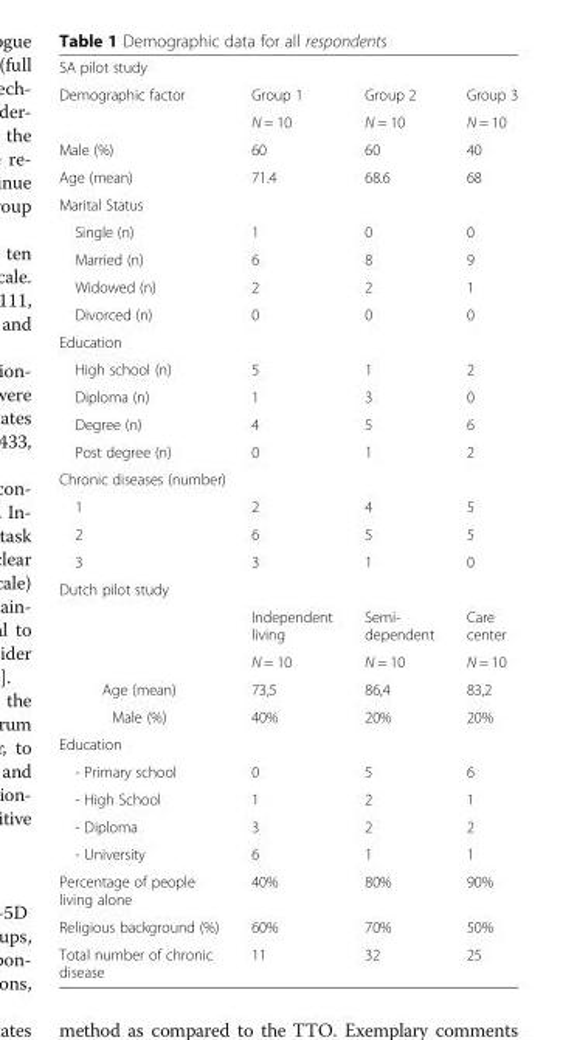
<table><tbody><tr><td colspan="4">SA pilot study</td></tr><tr><td rowspan="2">Demographic factor</td><td>Group 1</td><td>Group 2</td><td>Group 3</td></tr><tr><td>N = 10</td><td>N = 10</td><td>N = 10</td></tr><tr><td>Male (%)</td><td>60</td><td>60</td><td>40</td></tr><tr><td>Age (mean)</td><td>71.4</td><td>68.6</td><td>68</td></tr><tr><td colspan="4">Marital Status</td></tr><tr><td>Single (n)</td><td>1</td><td>0</td><td>0</td></tr><tr><td>Married (n)</td><td>6</td><td>8</td><td>9</td></tr><tr><td>Widowed (n)</td><td>2</td><td>2</td><td>1</td></tr><tr><td>Divorced (n)</td><td>0</td><td>0</td><td>0</td></tr><tr><td colspan="4">Education</td></tr><tr><td>High school (n)</td><td>5</td><td>1</td><td>2</td></tr><tr><td>Diploma (n)</td><td>1</td><td>3</td><td>0</td></tr><tr><td>Degree (n)</td><td>4</td><td>5</td><td>6</td></tr><tr><td>Post degree (n)</td><td>0</td><td>1</td><td>2</td></tr><tr><td colspan="4">Chronic diseases (number)</td></tr><tr><td>1</td><td>2</td><td>4</td><td>5</td></tr><tr><td>2</td><td>6</td><td>5</td><td>5</td></tr><tr><td>3</td><td>3</td><td>1</td><td>0</td></tr><tr><td colspan="4">Dutch pilot study</td></tr><tr><td></td><td>Independent living</td><td>Semi- dependent</td><td>Care center</td></tr><tr><td></td><td>N = 10</td><td>N = 10</td><td>N = 10</td></tr><tr><td>Age (mean)</td><td>73,5</td><td>86,4</td><td>83,2</td></tr><tr><td>Male (%)</td><td>40%</td><td>20%</td><td>20%</td></tr><tr><td colspan="4">Education</td></tr><tr><td>- Primary school</td><td>0</td><td>5</td><td>6</td></tr><tr><td>- High School</td><td>1</td><td>2</td><td>1</td></tr><tr><td>- Diploma</td><td>3</td><td>2</td><td>2</td></tr><tr><td>- University</td><td>6</td><td>1</td><td>1</td></tr><tr><td>Percentage of people living alone</td><td>40%</td><td>80%</td><td>90%</td></tr><tr><td>Religious background (%)</td><td>60%</td><td>70%</td><td>50%</td></tr><tr><td>Total number of chronic disease</td><td>11</td><td>32</td><td>25</td></tr></tbody></table>